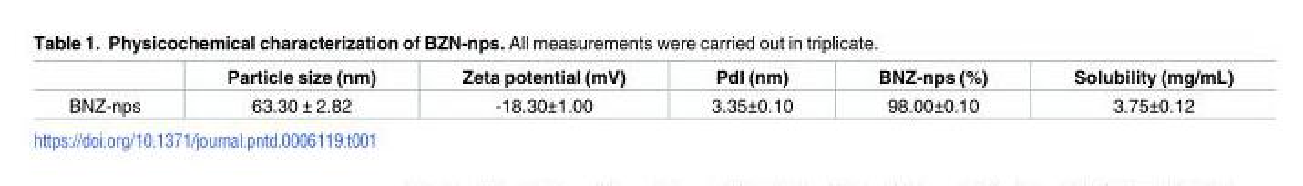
<table><thead><tr><td></td><td>Particle size (nm)</td><td>Zeta potential (mV)</td><td>PdI (nm)</td><td>BNZ-nps (%)</td><td>Solubility (mg/mL)</td></tr></thead><tbody><tr><td>BNZ-nps</td><td>63.30 ± 2.82</td><td>-18.30±1.00</td><td>3.35±0.10</td><td>98.00±0.10</td><td>3.75±0.12</td></tr></tbody></table>